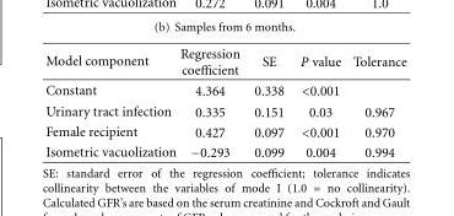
<table><thead><tr><td>Model component</td><td>Regression coefficient</td><td>SE</td><td>P value</td><td>Tolerance</td></tr></thead><tbody><tr><td>Constant</td><td>4.364</td><td>0.338</td><td>&lt;0.001</td><td></td></tr><tr><td>Urinary tract infection</td><td>0.335</td><td>0.151</td><td>0.03</td><td>0.967</td></tr><tr><td>Female recipient</td><td>0.427</td><td>0.097</td><td>&lt;0.001</td><td>0.970</td></tr><tr><td>Isometric vacuolization</td><td>−0.293</td><td>0.099</td><td>0.004</td><td>0.994</td></tr></tbody></table>